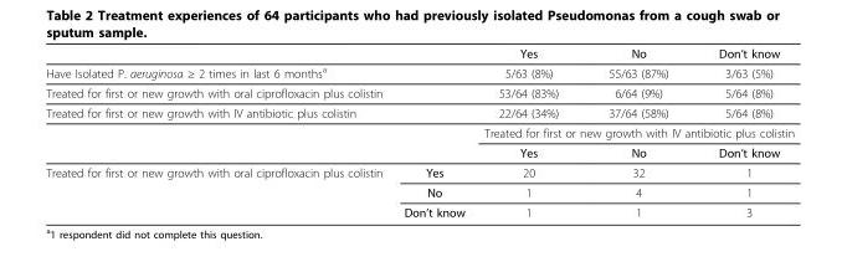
<table><thead><tr><td></td><td></td><td>Yes</td><td>No</td><td>Don’t know</td></tr></thead><tbody><tr><td colspan="2">Have Isolated P. aeruginosa ≥ 2 times in last 6 months<sup>a</sup></td><td>5/63 (8%)</td><td>55/63 (87%)</td><td>3/63 (5%)</td></tr><tr><td colspan="2">Treated for first or new growth with oral ciprofloxacin plus colistin</td><td>53/64 (83%)</td><td>6/64 (9%)</td><td>5/64 (8%)</td></tr><tr><td colspan="2">Treated for first or new growth with IV antibiotic plus colistin</td><td>22/64 (34%)</td><td>37/64 (58%)</td><td>5/64 (8%)</td></tr><tr><td></td><td></td><td colspan="3">Treated for first or new growth with IV antibiotic plus colistin</td></tr><tr><td></td><td></td><td>Yes</td><td>No</td><td>Don’t know</td></tr><tr><td rowspan="3">Treated for first or new growth with oral ciprofloxacin plus colistin</td><td>Yes</td><td>20</td><td>32</td><td>1</td></tr><tr><td>No</td><td>1</td><td>4</td><td>1</td></tr><tr><td>Don’t know</td><td>1</td><td>1</td><td>3</td></tr></tbody></table>